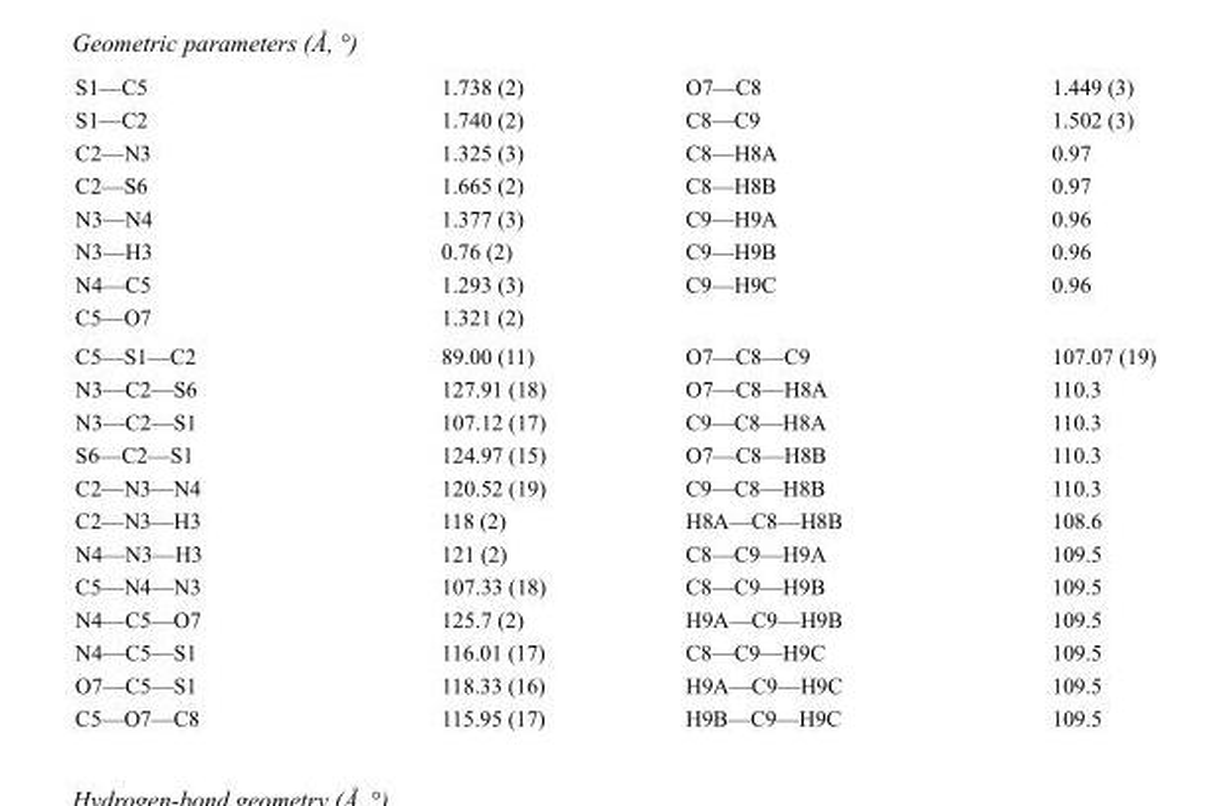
<table><tbody><tr><td>S1—C5</td><td>1.738 (2)</td><td>O7—C8</td><td>1.449 (3)</td></tr><tr><td>S1—C2</td><td>1.740 (2)</td><td>C8—C9</td><td>1.502 (3)</td></tr><tr><td>C2—N3</td><td>1.325 (3)</td><td>C8—H8A</td><td>0.97</td></tr><tr><td>C2—S6</td><td>1.665 (2)</td><td>C8—H8B</td><td>0.97</td></tr><tr><td>N3—N4</td><td>1.377 (3)</td><td>C9—H9A</td><td>0.96</td></tr><tr><td>N3—H3</td><td>0.76 (2)</td><td>C9—H9B</td><td>0.96</td></tr><tr><td>N4—C5</td><td>1.293 (3)</td><td>C9—H9C</td><td>0.96</td></tr><tr><td>C5—O7</td><td>1.321 (2)</td><td></td><td></td></tr><tr><td>C5—S1—C2</td><td>89.00 (11)</td><td>O7—C8—C9</td><td>107.07 (19)</td></tr><tr><td>N3—C2—S6</td><td>127.91 (18)</td><td>O7—C8—H8A</td><td>110.3</td></tr><tr><td>N3—C2—S1</td><td>107.12 (17)</td><td>C9—C8—H8A</td><td>110.3</td></tr><tr><td>S6—C2—S1</td><td>124.97 (15)</td><td>O7—C8—H8B</td><td>110.3</td></tr><tr><td>C2—N3—N4</td><td>120.52 (19)</td><td>C9—C8—H8B</td><td>110.3</td></tr><tr><td>C2—N3—H3</td><td>118 (2)</td><td>H8A—C8—H8B</td><td>108.6</td></tr><tr><td>N4—N3—H3</td><td>121 (2)</td><td>C8—C9—H9A</td><td>109.5</td></tr><tr><td>C5—N4—N3</td><td>107.33 (18)</td><td>C8—C9—H9B</td><td>109.5</td></tr><tr><td>N4—C5—O7</td><td>125.7 (2)</td><td>H9A—C9—H9B</td><td>109.5</td></tr><tr><td>N4—C5—S1</td><td>116.01 (17)</td><td>C8—C9—H9C</td><td>109.5</td></tr><tr><td>O7—C5—S1</td><td>118.33 (16)</td><td>H9A—C9—H9C</td><td>109.5</td></tr><tr><td>C5—O7—C8</td><td>115.95 (17)</td><td>H9B—C9—H9C</td><td>109.5</td></tr></tbody></table>